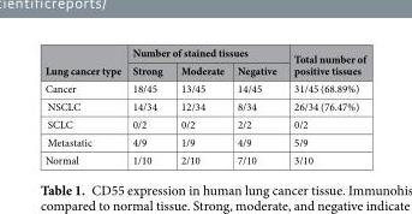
<table><thead><tr><td rowspan="2">Lung cancer type</td><td colspan="3">Number of stained tissues</td><td rowspan="2">Total number of positive tissues</td></tr><tr><td>Strong</td><td>Moderate</td><td>Negative</td></tr></thead><tbody><tr><td>Cancer</td><td>18/45</td><td>13/45</td><td>14/45</td><td>31/45 (68.89%)</td></tr><tr><td>NSCLC</td><td>14/34</td><td>12/34</td><td>8/34</td><td>26/34 (76.47%)</td></tr><tr><td>SCLC</td><td>0/2</td><td>0/2</td><td>2/2</td><td>0/2</td></tr><tr><td>Metastatic</td><td>4/9</td><td>1/9</td><td>4/9</td><td>5/9</td></tr><tr><td>Normal</td><td>1/10</td><td>2/10</td><td>7/10</td><td>3/10</td></tr></tbody></table>